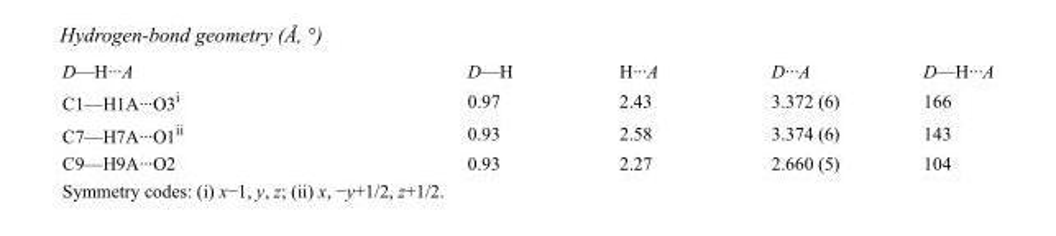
<table><tbody><tr><td>D—H···A</td><td>D—H</td><td>H···A</td><td>D···A</td><td>D—H···A</td></tr><tr><td>C1—H1A···O3<sup>i</sup></td><td>0.97</td><td>2.43</td><td>3.372 (6)</td><td>166</td></tr><tr><td>C7—H7A···O1<sup>ii</sup></td><td>0.93</td><td>2.58</td><td>3.374 (6)</td><td>143</td></tr><tr><td>C9—H9A···O2</td><td>0.93</td><td>2.27</td><td>2.660 (5)</td><td>104</td></tr></tbody></table>